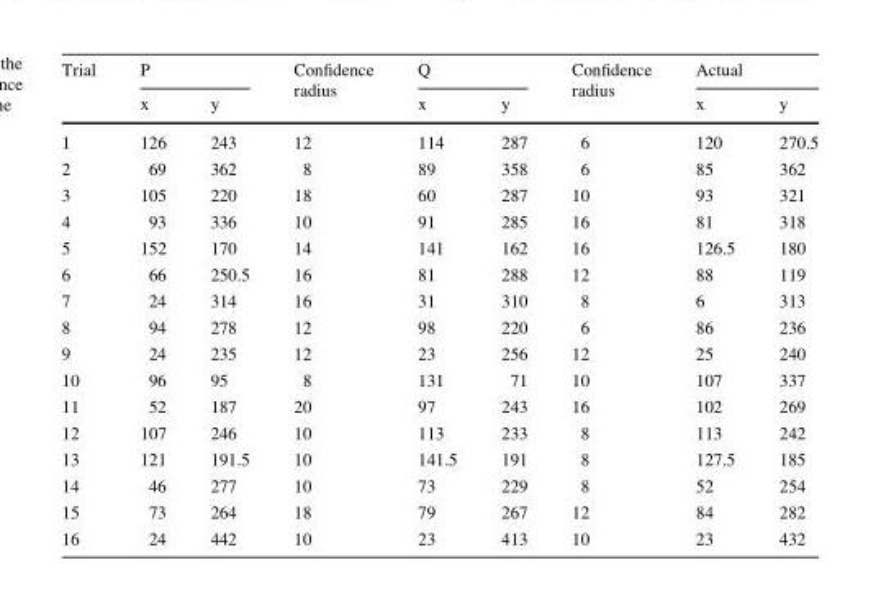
<table><thead><tr><td rowspan="2">Trial</td><td colspan="2">P</td><td rowspan="2">Confidence radius</td><td colspan="2">Q</td><td rowspan="2">Confidence radius</td><td colspan="2">Actual</td></tr><tr><td>x</td><td>y</td><td>x</td><td>y</td><td>x</td><td>y</td></tr></thead><tbody><tr><td>1</td><td>126</td><td>243</td><td>12</td><td>114</td><td>287</td><td>6</td><td>120</td><td>270.5</td></tr><tr><td>2</td><td>69</td><td>362</td><td>8</td><td>89</td><td>358</td><td>6</td><td>85</td><td>362</td></tr><tr><td>3</td><td>105</td><td>220</td><td>18</td><td>60</td><td>287</td><td>10</td><td>93</td><td>321</td></tr><tr><td>4</td><td>93</td><td>336</td><td>10</td><td>91</td><td>285</td><td>16</td><td>81</td><td>318</td></tr><tr><td>5</td><td>152</td><td>170</td><td>14</td><td>141</td><td>162</td><td>16</td><td>126.5</td><td>180</td></tr><tr><td>6</td><td>66</td><td>250.5</td><td>16</td><td>81</td><td>288</td><td>12</td><td>88</td><td>119</td></tr><tr><td>7</td><td>24</td><td>314</td><td>16</td><td>31</td><td>310</td><td>8</td><td>6</td><td>313</td></tr><tr><td>8</td><td>94</td><td>278</td><td>12</td><td>98</td><td>220</td><td>6</td><td>86</td><td>236</td></tr><tr><td>9</td><td>24</td><td>235</td><td>12</td><td>23</td><td>256</td><td>12</td><td>25</td><td>240</td></tr><tr><td>10</td><td>96</td><td>95</td><td>8</td><td>131</td><td>71</td><td>10</td><td>107</td><td>337</td></tr><tr><td>11</td><td>52</td><td>187</td><td>20</td><td>97</td><td>243</td><td>16</td><td>102</td><td>269</td></tr><tr><td>12</td><td>107</td><td>246</td><td>10</td><td>113</td><td>233</td><td>8</td><td>113</td><td>242</td></tr><tr><td>13</td><td>121</td><td>191.5</td><td>10</td><td>141.5</td><td>191</td><td>8</td><td>127.5</td><td>185</td></tr><tr><td>14</td><td>46</td><td>277</td><td>10</td><td>73</td><td>229</td><td>8</td><td>52</td><td>254</td></tr><tr><td>15</td><td>73</td><td>264</td><td>18</td><td>79</td><td>267</td><td>12</td><td>84</td><td>282</td></tr><tr><td>16</td><td>24</td><td>442</td><td>10</td><td>23</td><td>413</td><td>10</td><td>23</td><td>432</td></tr></tbody></table>